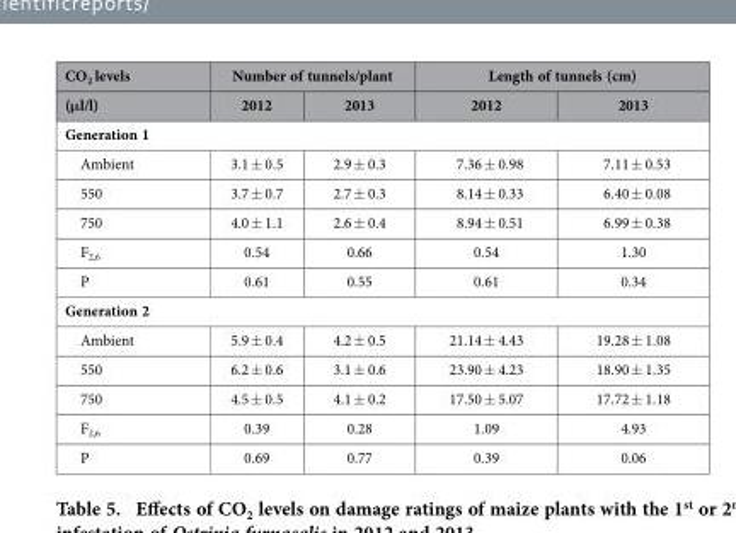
<table><thead><tr><td rowspan="2">CO<sub>2</sub> levels (μl/l)</td><td colspan="2">Number of tunnels/plant</td><td colspan="2">Length of tunnels (cm)</td></tr><tr><td>2012</td><td>2013</td><td>2012</td><td>2013</td></tr></thead><tbody><tr><td colspan="5">Generation 1</td></tr><tr><td>Ambient</td><td>3.1 ± 0.5</td><td>2.9 ± 0.3</td><td>7.36 ± 0.98</td><td>7.11 ± 0.53</td></tr><tr><td>550</td><td>3.7 ± 0.7</td><td>2.7 ± 0.3</td><td>8.14 ± 0.33</td><td>6.40 ± 0.08</td></tr><tr><td>750</td><td>4.0 ± 1.1</td><td>2.6 ± 0.4</td><td>8.94 ± 0.51</td><td>6.99 ± 0.38</td></tr><tr><td>F<sub>2,6</sub></td><td>0.54</td><td>0.66</td><td>0.54</td><td>1.30</td></tr><tr><td>P</td><td>0.61</td><td>0.55</td><td>0.61</td><td>0.34</td></tr><tr><td colspan="5">Generation 2</td></tr><tr><td>Ambient</td><td>5.9 ± 0.4</td><td>4.2 ± 0.5</td><td>21.14 ± 4.43</td><td>19.28 ± 1.08</td></tr><tr><td>550</td><td>6.2 ± 0.6</td><td>3.1 ± 0.6</td><td>23.90 ± 4.23</td><td>18.90 ± 1.35</td></tr><tr><td>750</td><td>4.5 ± 0.5</td><td>4.1 ± 0.2</td><td>17.50 ± 5.07</td><td>17.72 ± 1.18</td></tr><tr><td>F<sub>2,6</sub></td><td>0.39</td><td>0.28</td><td>1.09</td><td>4.93</td></tr><tr><td>P</td><td>0.69</td><td>0.77</td><td>0.39</td><td>0.06</td></tr></tbody></table>